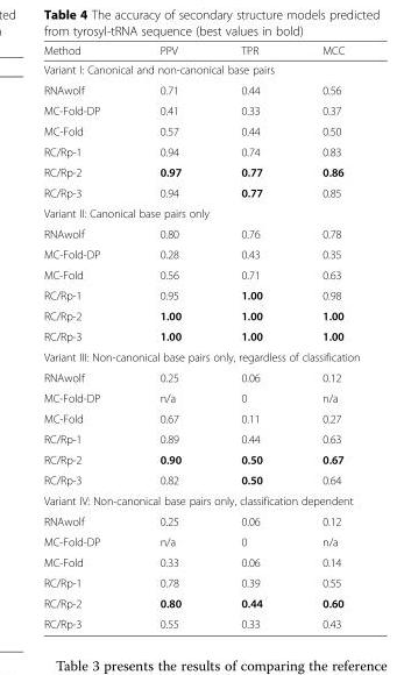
<table><thead><tr><td>Method</td><td>PPV</td><td>TPR</td><td>MCC</td></tr></thead><tbody><tr><td colspan="4">Variant I: Canonical and non-canonical base pairs</td></tr><tr><td>RNAwolf</td><td>0.71</td><td>0.44</td><td>0.56</td></tr><tr><td>MC-Fold-DP</td><td>0.41</td><td>0.33</td><td>0.37</td></tr><tr><td>MC-Fold</td><td>0.57</td><td>0.44</td><td>0.50</td></tr><tr><td>RC/Rp-1</td><td>0.94</td><td>0.74</td><td>0.83</td></tr><tr><td>RC/Rp-2</td><td>0.97</td><td>0.77</td><td>0.86</td></tr><tr><td>RC/Rp-3</td><td>0.94</td><td>0.77</td><td>0.85</td></tr><tr><td colspan="4">Variant II: Canonical base pairs only</td></tr><tr><td>RNAwolf</td><td>0.80</td><td>0.76</td><td>0.78</td></tr><tr><td>MC-Fold-DP</td><td>0.28</td><td>0.43</td><td>0.35</td></tr><tr><td>MC-Fold</td><td>0.56</td><td>0.71</td><td>0.63</td></tr><tr><td>RC/Rp-1</td><td>0.95</td><td>1.00</td><td>0.98</td></tr><tr><td>RC/Rp-2</td><td>1.00</td><td>1.00</td><td>1.00</td></tr><tr><td>RC/Rp-3</td><td>1.00</td><td>1.00</td><td>1.00</td></tr><tr><td colspan="4">Variant III: Non-canonical base pairs only, regardless of classification</td></tr><tr><td>RNAwolf</td><td>0.25</td><td>0.06</td><td>0.12</td></tr><tr><td>MC-Fold-DP</td><td>n/a</td><td>0</td><td>n/a</td></tr><tr><td>MC-Fold</td><td>0.67</td><td>0.11</td><td>0.27</td></tr><tr><td>RC/Rp-1</td><td>0.89</td><td>0.44</td><td>0.63</td></tr><tr><td>RC/Rp-2</td><td>0.90</td><td>0.50</td><td>0.67</td></tr><tr><td>RC/Rp-3</td><td>0.82</td><td>0.50</td><td>0.64</td></tr><tr><td colspan="4">Variant IV: Non-canonical base pairs only, classification dependent</td></tr><tr><td>RNAwolf</td><td>0.25</td><td>0.06</td><td>0.12</td></tr><tr><td>MC-Fold-DP</td><td>n/a</td><td>0</td><td>n/a</td></tr><tr><td>MC-Fold</td><td>0.33</td><td>0.06</td><td>0.14</td></tr><tr><td>RC/Rp-1</td><td>0.78</td><td>0.39</td><td>0.55</td></tr><tr><td>RC/Rp-2</td><td>0.80</td><td>0.44</td><td>0.60</td></tr><tr><td>RC/Rp-3</td><td>0.55</td><td>0.33</td><td>0.43</td></tr></tbody></table>